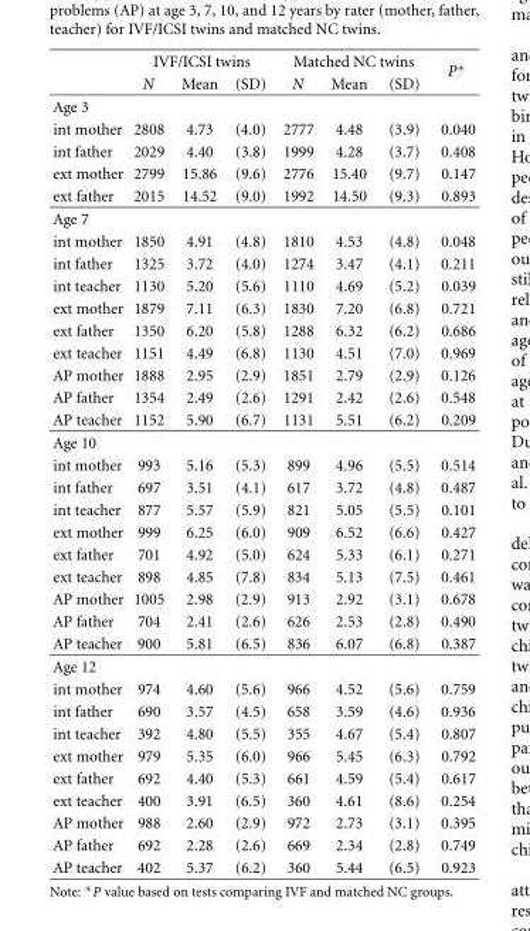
<table><thead><tr><td rowspan="2"></td><td colspan="3">IVF/ICSI twins</td><td colspan="3">Matched NC twins</td><td rowspan="2">P∗</td></tr><tr><td>N</td><td>Mean</td><td>(SD)</td><td>N</td><td>Mean</td><td>(SD)</td></tr></thead><tbody><tr><td colspan="8">Age 3</td></tr><tr><td>int mother</td><td>2808</td><td>4.73</td><td>(4.0)</td><td>2777</td><td>4.48</td><td>(3.9)</td><td>0.040</td></tr><tr><td>int father</td><td>2029</td><td>4.40</td><td>(3.8)</td><td>1999</td><td>4.28</td><td>(3.7)</td><td>0.408</td></tr><tr><td>ext mother</td><td>2799</td><td>15.86</td><td>(9.6)</td><td>2776</td><td>15.40</td><td>(9.7)</td><td>0.147</td></tr><tr><td>ext father</td><td>2015</td><td>14.52</td><td>(9.0)</td><td>1992</td><td>14.50</td><td>(9.3)</td><td>0.893</td></tr><tr><td colspan="8">Age 7</td></tr><tr><td>int mother</td><td>1850</td><td>4.91</td><td>(4.8)</td><td>1810</td><td>4.53</td><td>(4.8)</td><td>0.048</td></tr><tr><td>int father</td><td>1325</td><td>3.72</td><td>(4.0)</td><td>1274</td><td>3.47</td><td>(4.1)</td><td>0.211</td></tr><tr><td>int teacher</td><td>1130</td><td>5.20</td><td>(5.6)</td><td>1110</td><td>4.69</td><td>(5.2)</td><td>0.039</td></tr><tr><td>ext mother</td><td>1879</td><td>7.11</td><td>(6.3)</td><td>1830</td><td>7.20</td><td>(6.8)</td><td>0.721</td></tr><tr><td>ext father</td><td>1350</td><td>6.20</td><td>(5.8)</td><td>1288</td><td>6.32</td><td>(6.2)</td><td>0.686</td></tr><tr><td>ext teacher</td><td>1151</td><td>4.49</td><td>(6.8)</td><td>1130</td><td>4.51</td><td>(7.0)</td><td>0.969</td></tr><tr><td>AP mother</td><td>1888</td><td>2.95</td><td>(2.9)</td><td>1851</td><td>2.79</td><td>(2.9)</td><td>0.126</td></tr><tr><td>AP father</td><td>1354</td><td>2.49</td><td>(2.6)</td><td>1291</td><td>2.42</td><td>(2.6)</td><td>0.548</td></tr><tr><td>AP teacher</td><td>1152</td><td>5.90</td><td>(6.7)</td><td>1131</td><td>5.51</td><td>(6.2)</td><td>0.209</td></tr><tr><td colspan="8">Age 10</td></tr><tr><td>int mother</td><td>993</td><td>5.16</td><td>(5.3)</td><td>899</td><td>4.96</td><td>(5.5)</td><td>0.514</td></tr><tr><td>int father</td><td>697</td><td>3.51</td><td>(4.1)</td><td>617</td><td>3.72</td><td>(4.8)</td><td>0.487</td></tr><tr><td>int teacher</td><td>877</td><td>5.57</td><td>(5.9)</td><td>821</td><td>5.05</td><td>(5.5)</td><td>0.101</td></tr><tr><td>ext mother</td><td>999</td><td>6.25</td><td>(6.0)</td><td>909</td><td>6.52</td><td>(6.6)</td><td>0.427</td></tr><tr><td>ext father</td><td>701</td><td>4.92</td><td>(5.0)</td><td>624</td><td>5.33</td><td>(6.1)</td><td>0.271</td></tr><tr><td>ext teacher</td><td>898</td><td>4.85</td><td>(7.8)</td><td>834</td><td>5.13</td><td>(7.5)</td><td>0.461</td></tr><tr><td>AP mother</td><td>1005</td><td>2.98</td><td>(2.9)</td><td>913</td><td>2.92</td><td>(3.1)</td><td>0.678</td></tr><tr><td>AP father</td><td>704</td><td>2.41</td><td>(2.6)</td><td>626</td><td>2.53</td><td>(2.8)</td><td>0.490</td></tr><tr><td>AP teacher</td><td>900</td><td>5.81</td><td>(6.5)</td><td>836</td><td>6.07</td><td>(6.8)</td><td>0.387</td></tr><tr><td colspan="8">Age 12</td></tr><tr><td>int mother</td><td>974</td><td>4.60</td><td>(5.6)</td><td>966</td><td>4.52</td><td>(5.6)</td><td>0.759</td></tr><tr><td>int father</td><td>690</td><td>3.57</td><td>(4.5)</td><td>658</td><td>3.59</td><td>(4.6)</td><td>0.936</td></tr><tr><td>int teacher</td><td>392</td><td>4.80</td><td>(5.5)</td><td>355</td><td>4.67</td><td>(5.4)</td><td>0.807</td></tr><tr><td>ext mother</td><td>979</td><td>5.35</td><td>(6.0)</td><td>966</td><td>5.45</td><td>(6.3)</td><td>0.792</td></tr><tr><td>ext father</td><td>692</td><td>4.40</td><td>(5.3)</td><td>661</td><td>4.59</td><td>(5.4)</td><td>0.617</td></tr><tr><td>ext teacher</td><td>400</td><td>3.91</td><td>(6.5)</td><td>360</td><td>4.61</td><td>(8.6)</td><td>0.254</td></tr><tr><td>AP mother</td><td>988</td><td>2.60</td><td>(2.9)</td><td>972</td><td>2.73</td><td>(3.1)</td><td>0.395</td></tr><tr><td>AP father</td><td>692</td><td>2.28</td><td>(2.6)</td><td>669</td><td>2.34</td><td>(2.8)</td><td>0.749</td></tr><tr><td>AP teacher</td><td>402</td><td>5.37</td><td>(6.2)</td><td>360</td><td>5.44</td><td>(6.5)</td><td>0.923</td></tr></tbody></table>